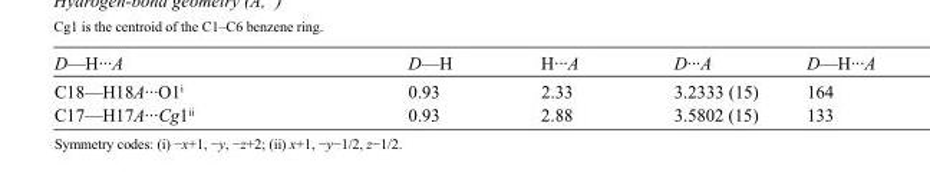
<table><tbody><tr><td>D—H···A</td><td>D—H</td><td>H···A</td><td>D···A</td><td>D—H···A</td></tr><tr><td>C18—H18A···O1<sup>i</sup></td><td>0.93</td><td>2.33</td><td>3.2333 (15)</td><td>164</td></tr><tr><td>C17—H17A···Cg1<sup>ii</sup></td><td>0.93</td><td>2.88</td><td>3.5802 (15)</td><td>133</td></tr></tbody></table>